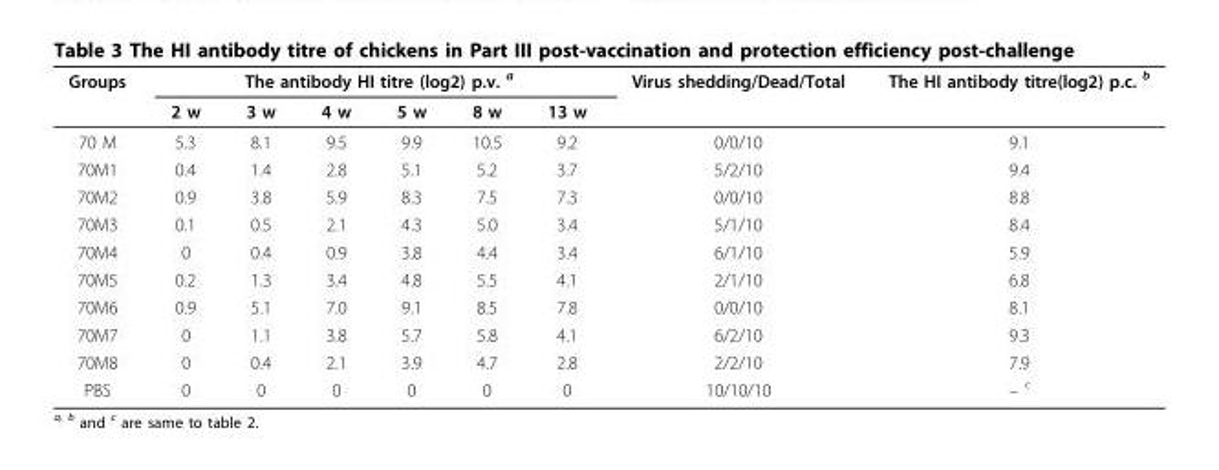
<table><thead><tr><td rowspan="2">Groups</td><td colspan="6">The antibody HI titre (log2) p.v. <sup>a</sup></td><td rowspan="2">Virus shedding/Dead/Total</td><td rowspan="2">The HI antibody titre(log2) p.c. <sup>b</sup></td></tr><tr><td>2 w</td><td>3 w</td><td>4 w</td><td>5 w</td><td>8 w</td><td>13 w</td></tr></thead><tbody><tr><td>70 M</td><td>5.3</td><td>8.1</td><td>9.5</td><td>9.9</td><td>10.5</td><td>9.2</td><td>0/0/10</td><td>9.1</td></tr><tr><td>70M1</td><td>0.4</td><td>1.4</td><td>2.8</td><td>5.1</td><td>5.2</td><td>3.7</td><td>5/2/10</td><td>9.4</td></tr><tr><td>70M2</td><td>0.9</td><td>3.8</td><td>5.9</td><td>8.3</td><td>7.5</td><td>7.3</td><td>0/0/10</td><td>8.8</td></tr><tr><td>70M3</td><td>0.1</td><td>0.5</td><td>2.1</td><td>4.3</td><td>5.0</td><td>3.4</td><td>5/1/10</td><td>8.4</td></tr><tr><td>70M4</td><td>0</td><td>0.4</td><td>0.9</td><td>3.8</td><td>4.4</td><td>3.4</td><td>6/1/10</td><td>5.9</td></tr><tr><td>70M5</td><td>0.2</td><td>1.3</td><td>3.4</td><td>4.8</td><td>5.5</td><td>4.1</td><td>2/1/10</td><td>6.8</td></tr><tr><td>70M6</td><td>0.9</td><td>5.1</td><td>7.0</td><td>9.1</td><td>8.5</td><td>7.8</td><td>0/0/10</td><td>8.1</td></tr><tr><td>70M7</td><td>0</td><td>1.1</td><td>3.8</td><td>5.7</td><td>5.8</td><td>4.1</td><td>6/2/10</td><td>9.3</td></tr><tr><td>70M8</td><td>0</td><td>0.4</td><td>2.1</td><td>3.9</td><td>4.7</td><td>2.8</td><td>2/2/10</td><td>7.9</td></tr><tr><td>PBS</td><td>0</td><td>0</td><td>0</td><td>0</td><td>0</td><td>0</td><td>10/10/10</td><td>– c</td></tr></tbody></table>